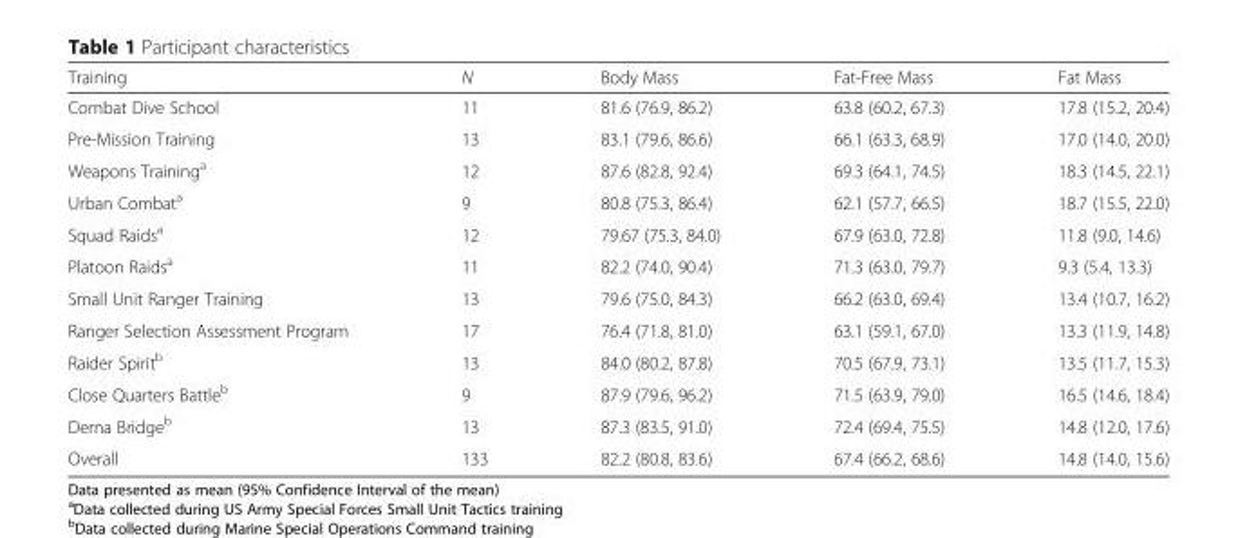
<table><thead><tr><td>Training</td><td>N</td><td>Body Mass</td><td>Fat-Free Mass</td><td>Fat Mass</td></tr></thead><tbody><tr><td>Combat Dive School</td><td>11</td><td>81.6 (76.9, 86.2)</td><td>63.8 (60.2, 67.3)</td><td>17.8 (15.2, 20.4)</td></tr><tr><td>Pre-Mission Training</td><td>13</td><td>83.1 (79.6, 86.6)</td><td>66.1 (63.3, 68.9)</td><td>17.0 (14.0, 20.0)</td></tr><tr><td>Weapons Training<sup>a</sup></td><td>12</td><td>87.6 (82.8, 92.4)</td><td>69.3 (64.1, 74.5)</td><td>18.3 (14.5, 22.1)</td></tr><tr><td>Urban Combat<sup>a</sup></td><td>9</td><td>80.8 (75.3, 86.4)</td><td>62.1 (57.7, 66.5)</td><td>18.7 (15.5, 22.0)</td></tr><tr><td>Squad Raids<sup>a</sup></td><td>12</td><td>79.67 (75.3, 84.0)</td><td>67.9 (63.0, 72.8)</td><td>11.8 (9.0, 14.6)</td></tr><tr><td>Platoon Raids<sup>a</sup></td><td>11</td><td>82.2 (74.0, 90.4)</td><td>71.3 (63.0, 79.7)</td><td>9.3 (5.4, 13.3)</td></tr><tr><td>Small Unit Ranger Training</td><td>13</td><td>79.6 (75.0, 84.3)</td><td>66.2 (63.0, 69.4)</td><td>13.4 (10.7, 16.2)</td></tr><tr><td>Ranger Selection Assessment Program</td><td>17</td><td>76.4 (71.8, 81.0)</td><td>63.1 (59.1, 67.0)</td><td>13.3 (11.9, 14.8)</td></tr><tr><td>Raider Spirit<sup>b</sup></td><td>13</td><td>84.0 (80.2, 87.8)</td><td>70.5 (67.9, 73.1)</td><td>13.5 (11.7, 15.3)</td></tr><tr><td>Close Quarters Battle<sup>b</sup></td><td>9</td><td>87.9 (79.6, 96.2)</td><td>71.5 (63.9, 79.0)</td><td>16.5 (14.6, 18.4)</td></tr><tr><td>Derna Bridge<sup>b</sup></td><td>13</td><td>87.3 (83.5, 91.0)</td><td>72.4 (69.4, 75.5)</td><td>14.8 (12.0, 17.6)</td></tr><tr><td>Overall</td><td>133</td><td>82.2 (80.8, 83.6)</td><td>67.4 (66.2, 68.6)</td><td>14.8 (14.0, 15.6)</td></tr></tbody></table>